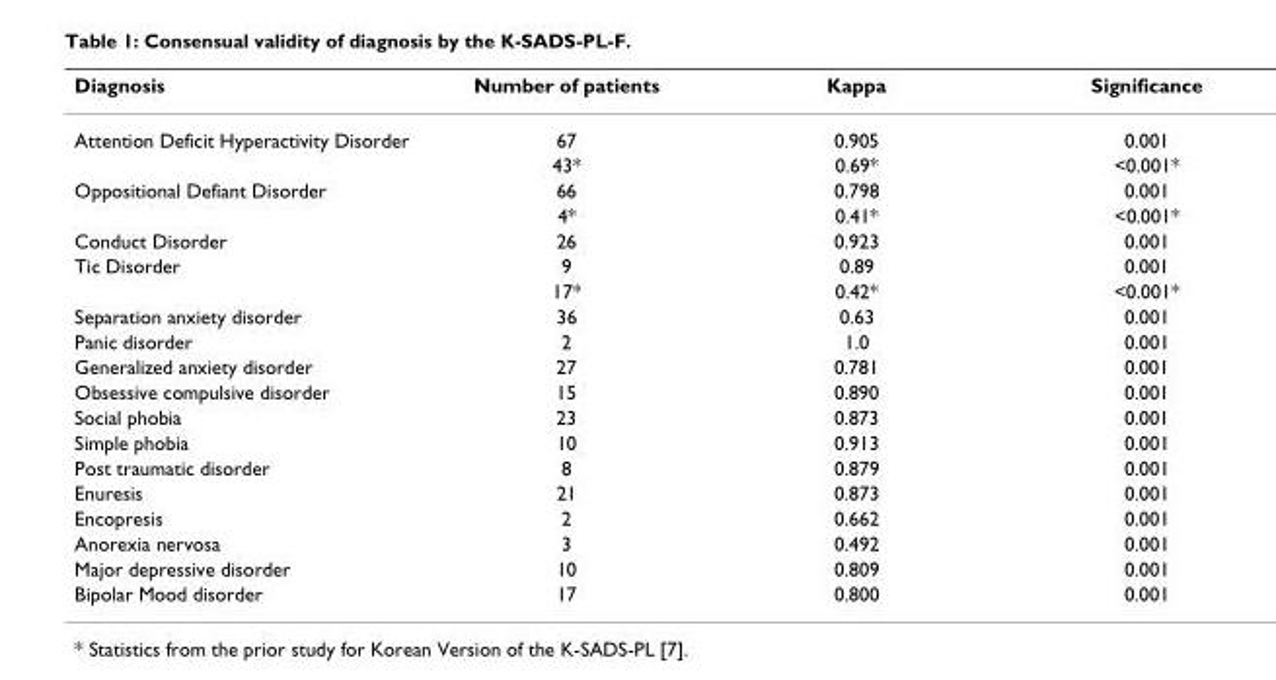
<table><thead><tr><td>Diagnosis</td><td>Number of patients</td><td>Kappa</td><td>Significance</td></tr></thead><tbody><tr><td rowspan="2">Attention Deficit Hyperactivity Disorder</td><td>67</td><td>0.905</td><td>0.001</td></tr><tr><td>43*</td><td>0.69*</td><td>&lt;0.001*</td></tr><tr><td rowspan="2">Oppositional Defiant Disorder</td><td>66</td><td>0.798</td><td>0.001</td></tr><tr><td>4*</td><td>0.41*</td><td>&lt;0.001*</td></tr><tr><td>Conduct Disorder</td><td>26</td><td>0.923</td><td>0.001</td></tr><tr><td rowspan="2">Tic Disorder</td><td>9</td><td>0.89</td><td>0.001</td></tr><tr><td>17*</td><td>0.42*</td><td>&lt;0.001*</td></tr><tr><td>Separation anxiety disorder</td><td>36</td><td>0.63</td><td>0.001</td></tr><tr><td>Panic disorder</td><td>2</td><td>1.0</td><td>0.001</td></tr><tr><td>Generalized anxiety disorder</td><td>27</td><td>0.781</td><td>0.001</td></tr><tr><td>Obsessive compulsive disorder</td><td>15</td><td>0.890</td><td>0.001</td></tr><tr><td>Social phobia</td><td>23</td><td>0.873</td><td>0.001</td></tr><tr><td>Simple phobia</td><td>10</td><td>0.913</td><td>0.001</td></tr><tr><td>Post traumatic disorder</td><td>8</td><td>0.879</td><td>0.001</td></tr><tr><td>Enuresis</td><td>21</td><td>0.873</td><td>0.001</td></tr><tr><td>Encopresis</td><td>2</td><td>0.662</td><td>0.001</td></tr><tr><td>Anorexia nervosa</td><td>3</td><td>0.492</td><td>0.001</td></tr><tr><td>Major depressive disorder</td><td>10</td><td>0.809</td><td>0.001</td></tr><tr><td>Bipolar Mood disorder</td><td>17</td><td>0.800</td><td>0.001</td></tr></tbody></table>